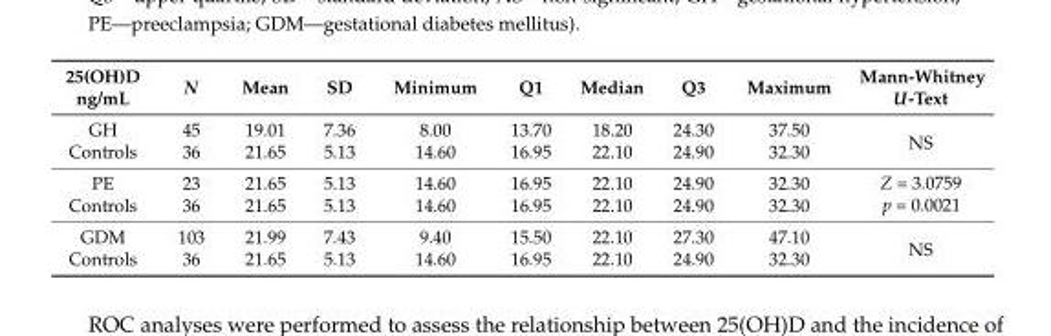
<table><thead><tr><td>25(OH)D ng/mL</td><td>N</td><td>Mean</td><td>SD</td><td>Minimum</td><td>Q1</td><td>Median</td><td>Q3</td><td>Maximum</td><td>Mann-Whitney U-Text</td></tr></thead><tbody><tr><td>GH</td><td>45</td><td>19.01</td><td>7.36</td><td>8.00</td><td>13.70</td><td>18.20</td><td>24.30</td><td>37.50</td><td rowspan="2">NS</td></tr><tr><td>Controls</td><td>36</td><td>21.65</td><td>5.13</td><td>14.60</td><td>16.95</td><td>22.10</td><td>24.90</td><td>32.30</td></tr><tr><td>PE</td><td>23</td><td>21.65</td><td>5.13</td><td>14.60</td><td>16.95</td><td>22.10</td><td>24.90</td><td>32.30</td><td rowspan="2">Z = 3.0759 p = 0.0021</td></tr><tr><td>Controls</td><td>36</td><td>21.65</td><td>5.13</td><td>14.60</td><td>16.95</td><td>22.10</td><td>24.90</td><td>32.30</td></tr><tr><td>GDM</td><td>103</td><td>21.99</td><td>7.43</td><td>9.40</td><td>15.50</td><td>22.10</td><td>27.30</td><td>47.10</td><td rowspan="2">NS</td></tr><tr><td>Controls</td><td>36</td><td>21.65</td><td>5.13</td><td>14.60</td><td>16.95</td><td>22.10</td><td>24.90</td><td>32.30</td></tr></tbody></table>